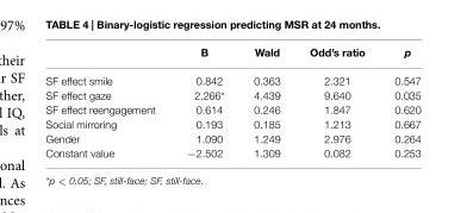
<table><thead><tr><td></td><td>B</td><td>Wald</td><td>Odd’s ratio</td><td>p</td></tr></thead><tbody><tr><td>SF effect smile</td><td>0.842</td><td>0.363</td><td>2.321</td><td>0.547</td></tr><tr><td>SF effect gaze</td><td>2.266*</td><td>4.439</td><td>9.640</td><td>0.035</td></tr><tr><td>SF effect reengagement</td><td>0.614</td><td>0.246</td><td>1.847</td><td>0.620</td></tr><tr><td>Social mirroring</td><td>0.193</td><td>0.185</td><td>1.213</td><td>0.667</td></tr><tr><td>Gender</td><td>1.090</td><td>1.249</td><td>2.976</td><td>0.264</td></tr><tr><td>Constant value</td><td>−2.502</td><td>1.309</td><td>0.082</td><td>0.253</td></tr></tbody></table>